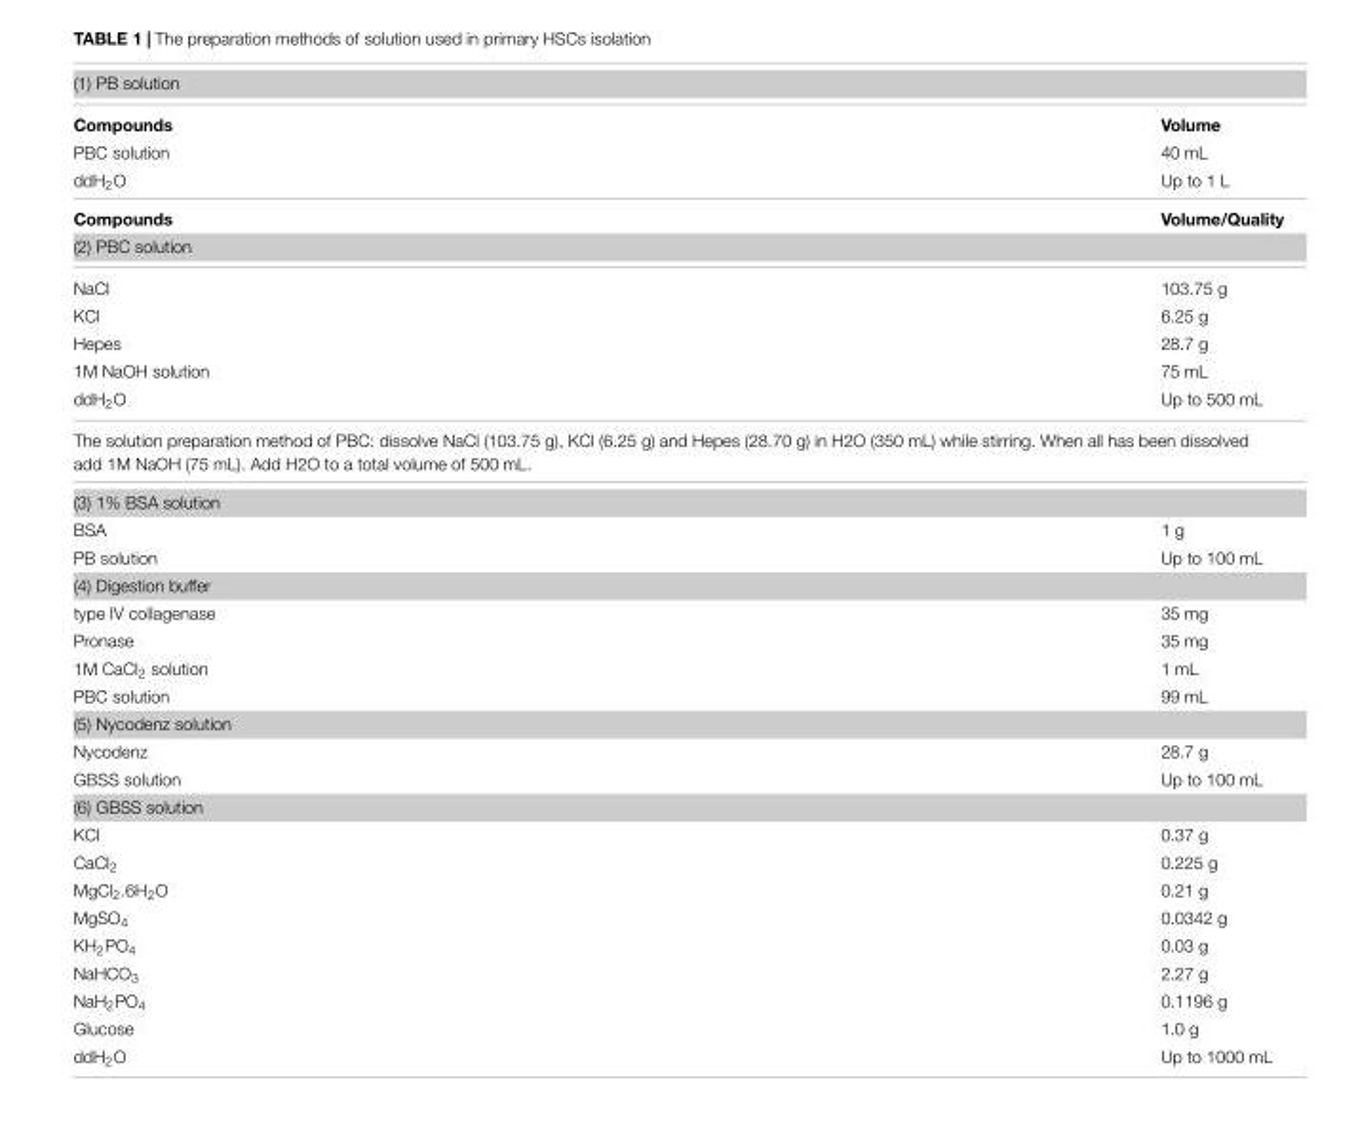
<table><tbody><tr><td colspan="2">(1) PB solution</td></tr><tr><td>Compounds</td><td>Volume</td></tr><tr><td>PBC solution</td><td>40 mL</td></tr><tr><td>ddH<sub>2</sub>O</td><td>Up to 1 L</td></tr><tr><td>Compounds</td><td>Volume/Quality</td></tr><tr><td colspan="2">(2) PBC solution</td></tr><tr><td>NaCl</td><td>103.75 g</td></tr><tr><td>KCl</td><td>6.25 g</td></tr><tr><td>Hepes</td><td>28.7 g</td></tr><tr><td>1M NaOH solution</td><td>75 mL</td></tr><tr><td>ddH<sub>2</sub>O</td><td>Up to 500 mL</td></tr><tr><td colspan="2">The solution preparation method of PBC: dissolve NaCl (103.75 g), KCl (6.25 g) and Hepes (28.70 g) in H2O (350 mL) while stirring. When all has been dissolved add 1M NaOH (75 mL). Add H2O to a total volume of 500 mL.</td></tr><tr><td colspan="2">(3) 1% BSA solution</td></tr><tr><td>BSA</td><td>1 g</td></tr><tr><td>PB solution</td><td>Up to 100 mL</td></tr><tr><td colspan="2">(4) Digestion buffer</td></tr><tr><td>type IV collagenase</td><td>35 mg</td></tr><tr><td>Pronase</td><td>35 mg</td></tr><tr><td>1M CaCl<sub>2</sub> solution</td><td>1 mL</td></tr><tr><td>PBC solution</td><td>99 mL</td></tr><tr><td colspan="2">(5) Nycodenz solution</td></tr><tr><td>Nycodenz</td><td>28.7 g</td></tr><tr><td>GBSS solution</td><td>Up to 100 mL</td></tr><tr><td colspan="2">(6) GBSS solution</td></tr><tr><td>KCl</td><td>0.37 g</td></tr><tr><td>CaCl<sub>2</sub></td><td>0.225 g</td></tr><tr><td>MgCl<sub>2</sub>.6H<sub>2</sub>O</td><td>0.21 g</td></tr><tr><td>MgSO<sub>4</sub></td><td>0.0342 g</td></tr><tr><td>KH<sub>2</sub>PO<sub>4</sub></td><td>0.03 g</td></tr><tr><td>NaHCO<sub>3</sub></td><td>2.27 g</td></tr><tr><td>NaH<sub>2</sub>PO<sub>4</sub></td><td>0.1196 g</td></tr><tr><td>Glucose</td><td>1.0 g</td></tr><tr><td>ddH<sub>2</sub>O</td><td>Up to 1000 mL</td></tr></tbody></table>